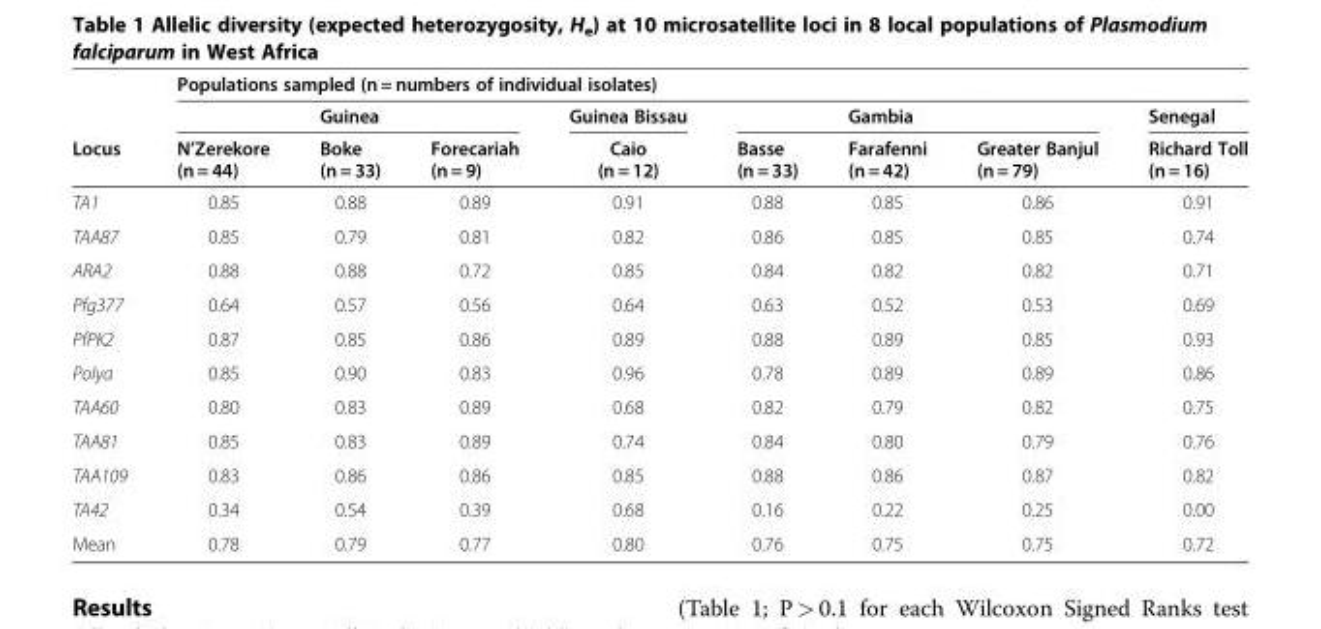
<table><thead><tr><td rowspan="3">Locus</td><td colspan="6">Populations sampled (n = numbers of individual isolates)</td><td rowspan="3">Greater Banjul (n = 79)</td><td rowspan="3">Senegal Richard Toll (n = 16)</td></tr><tr><td rowspan="2">N’Zerekore (n = 44)</td><td rowspan="2">Guinea Boke (n = 33)</td><td rowspan="2">Forecariah (n = 9)</td><td rowspan="2">Guinea Bissau Caio (n = 12)</td><td rowspan="2">Basse (n = 33)</td><td rowspan="2">Gambia Farafenni (n = 42)</td></tr><tr></tr></thead><tbody><tr><td>TA1</td><td>0.85</td><td>0.88</td><td>0.89</td><td>0.91</td><td>0.88</td><td>0.85</td><td>0.86</td><td>0.91</td></tr><tr><td>TAA87</td><td>0.85</td><td>0.79</td><td>0.81</td><td>0.82</td><td>0.86</td><td>0.85</td><td>0.85</td><td>0.74</td></tr><tr><td>ARA2</td><td>0.88</td><td>0.88</td><td>0.72</td><td>0.85</td><td>0.84</td><td>0.82</td><td>0.82</td><td>0.71</td></tr><tr><td>Pfg377</td><td>0.64</td><td>0.57</td><td>0.56</td><td>0.64</td><td>0.63</td><td>0.52</td><td>0.53</td><td>0.69</td></tr><tr><td>PfPK2</td><td>0.87</td><td>0.85</td><td>0.86</td><td>0.89</td><td>0.88</td><td>0.89</td><td>0.85</td><td>0.93</td></tr><tr><td>Polya</td><td>0.85</td><td>0.90</td><td>0.83</td><td>0.96</td><td>0.78</td><td>0.89</td><td>0.89</td><td>0.86</td></tr><tr><td>TAA60</td><td>0.80</td><td>0.83</td><td>0.89</td><td>0.68</td><td>0.82</td><td>0.79</td><td>0.82</td><td>0.75</td></tr><tr><td>TAA81</td><td>0.85</td><td>0.83</td><td>0.89</td><td>0.74</td><td>0.84</td><td>0.80</td><td>0.79</td><td>0.76</td></tr><tr><td>TAA109</td><td>0.83</td><td>0.86</td><td>0.86</td><td>0.85</td><td>0.88</td><td>0.86</td><td>0.87</td><td>0.82</td></tr><tr><td>TA42</td><td>0.34</td><td>0.54</td><td>0.39</td><td>0.68</td><td>0.16</td><td>0.22</td><td>0.25</td><td>0.00</td></tr><tr><td>Mean</td><td>0.78</td><td>0.79</td><td>0.77</td><td>0.80</td><td>0.76</td><td>0.75</td><td>0.75</td><td>0.72</td></tr></tbody></table>